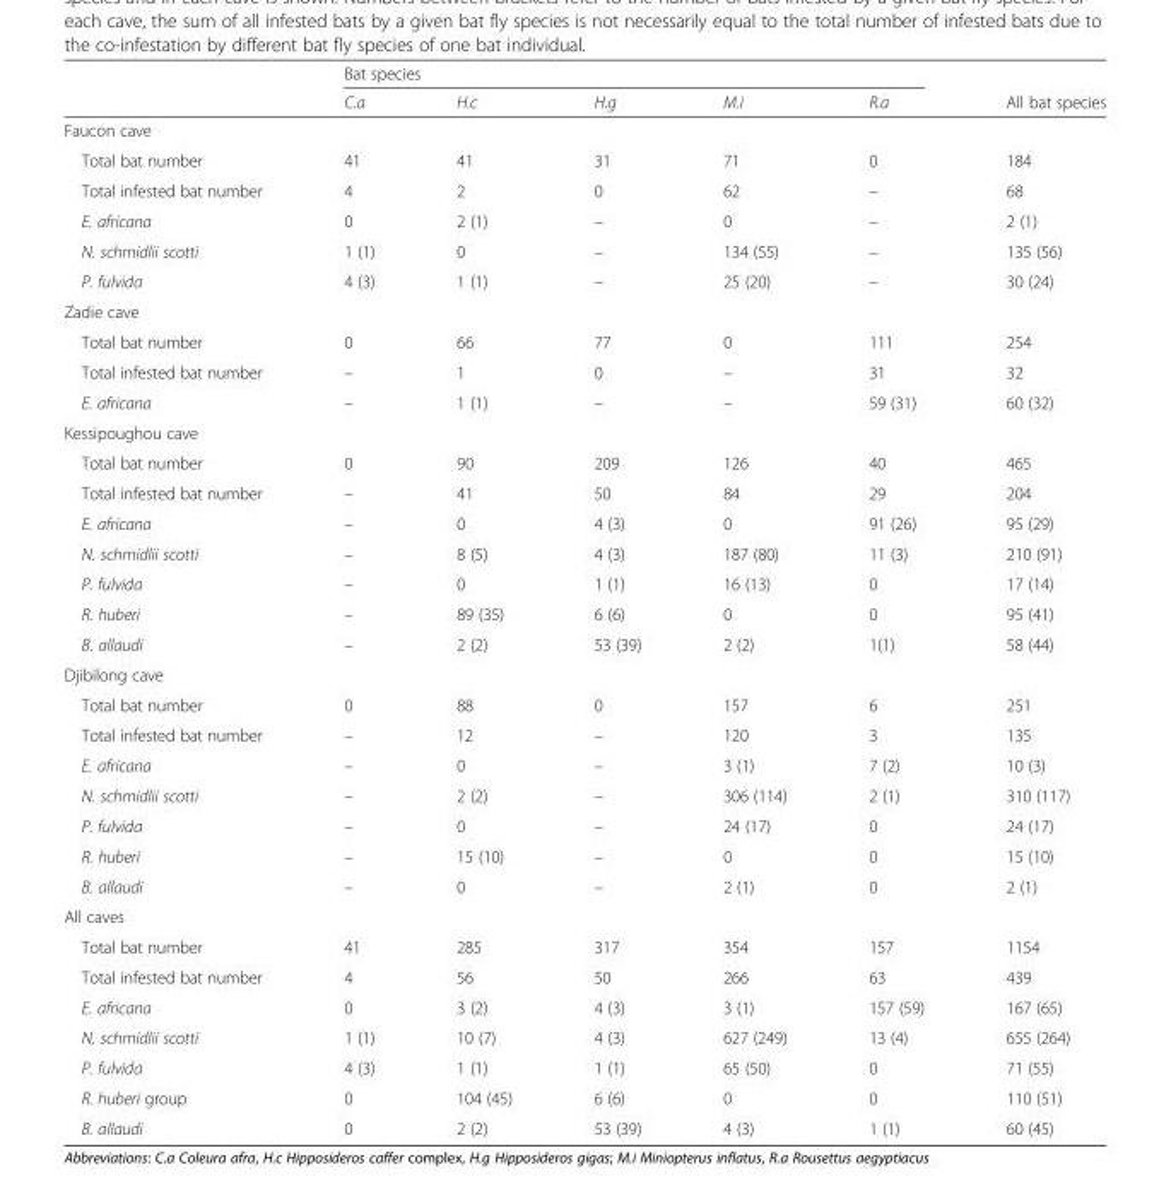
<table><thead><tr><td rowspan="2"></td><td colspan="5">Bat species</td><td rowspan="2">All bat species</td></tr><tr><td>C.a</td><td>H.c</td><td>H.g</td><td>M.i</td><td>R.a</td></tr></thead><tbody><tr><td colspan="7">Faucon cave</td></tr><tr><td>Total bat number</td><td>41</td><td>41</td><td>31</td><td>71</td><td>0</td><td>184</td></tr><tr><td>Total infested bat number</td><td>4</td><td>2</td><td>0</td><td>62</td><td>–</td><td>68</td></tr><tr><td>E. africana</td><td>0</td><td>2 (1)</td><td>–</td><td>0</td><td>–</td><td>2 (1)</td></tr><tr><td>N. schmidlii scotti</td><td>1 (1)</td><td>0</td><td>–</td><td>134 (55)</td><td>–</td><td>135 (56)</td></tr><tr><td>P. fulvida</td><td>4 (3)</td><td>1 (1)</td><td>–</td><td>25 (20)</td><td>–</td><td>30 (24)</td></tr><tr><td colspan="7">Zadie cave</td></tr><tr><td>Total bat number</td><td>0</td><td>66</td><td>77</td><td>0</td><td>111</td><td>254</td></tr><tr><td>Total infested bat number</td><td>–</td><td>1</td><td>0</td><td>–</td><td>31</td><td>32</td></tr><tr><td>E. africana</td><td>–</td><td>1 (1)</td><td>–</td><td>–</td><td>59 (31)</td><td>60 (32)</td></tr><tr><td colspan="7">Kessipoughou cave</td></tr><tr><td>Total bat number</td><td>0</td><td>90</td><td>209</td><td>126</td><td>40</td><td>465</td></tr><tr><td>Total infested bat number</td><td>–</td><td>41</td><td>50</td><td>84</td><td>29</td><td>204</td></tr><tr><td>E. africana</td><td>–</td><td>0</td><td>4 (3)</td><td>0</td><td>91 (26)</td><td>95 (29)</td></tr><tr><td>N. schmidlii scotti</td><td>–</td><td>8 (5)</td><td>4 (3)</td><td>187 (80)</td><td>11 (3)</td><td>210 (91)</td></tr><tr><td>P. fulvida</td><td>–</td><td>0</td><td>1 (1)</td><td>16 (13)</td><td>0</td><td>17 (14)</td></tr><tr><td>R. huberi</td><td>–</td><td>89 (35)</td><td>6 (6)</td><td>0</td><td>0</td><td>95 (41)</td></tr><tr><td>B. allaudi</td><td>–</td><td>2 (2)</td><td>53 (39)</td><td>2 (2)</td><td>1(1)</td><td>58 (44)</td></tr><tr><td colspan="7">Djibilong cave</td></tr><tr><td>Total bat number</td><td>0</td><td>88</td><td>0</td><td>157</td><td>6</td><td>251</td></tr><tr><td>Total infested bat number</td><td>–</td><td>12</td><td>–</td><td>120</td><td>3</td><td>135</td></tr><tr><td>E. africana</td><td>–</td><td>0</td><td>–</td><td>3 (1)</td><td>7 (2)</td><td>10 (3)</td></tr><tr><td>N. schmidlii scotti</td><td>–</td><td>2 (2)</td><td>–</td><td>306 (114)</td><td>2 (1)</td><td>310 (117)</td></tr><tr><td>P. fulvida</td><td>–</td><td>0</td><td>–</td><td>24 (17)</td><td>0</td><td>24 (17)</td></tr><tr><td>R. huberi</td><td>–</td><td>15 (10)</td><td>–</td><td>0</td><td>0</td><td>15 (10)</td></tr><tr><td>B. allaudi</td><td>–</td><td>0</td><td>–</td><td>2 (1)</td><td>0</td><td>2 (1)</td></tr><tr><td colspan="7">All caves</td></tr><tr><td>Total bat number</td><td>41</td><td>285</td><td>317</td><td>354</td><td>157</td><td>1154</td></tr><tr><td>Total infested bat number</td><td>4</td><td>56</td><td>50</td><td>266</td><td>63</td><td>439</td></tr><tr><td>E. africana</td><td>0</td><td>3 (2)</td><td>4 (3)</td><td>3 (1)</td><td>157 (59)</td><td>167 (65)</td></tr><tr><td>N. schmidlii scotti</td><td>1 (1)</td><td>10 (7)</td><td>4 (3)</td><td>627 (249)</td><td>13 (4)</td><td>655 (264)</td></tr><tr><td>P. fulvida</td><td>4 (3)</td><td>1 (1)</td><td>1 (1)</td><td>65 (50)</td><td>0</td><td>71 (55)</td></tr><tr><td>R. huberi group</td><td>0</td><td>104 (45)</td><td>6 (6)</td><td>0</td><td>0</td><td>110 (51)</td></tr><tr><td>B. allaudi</td><td>0</td><td>2 (2)</td><td>53 (39)</td><td>4 (3)</td><td>1 (1)</td><td>60 (45)</td></tr></tbody></table>